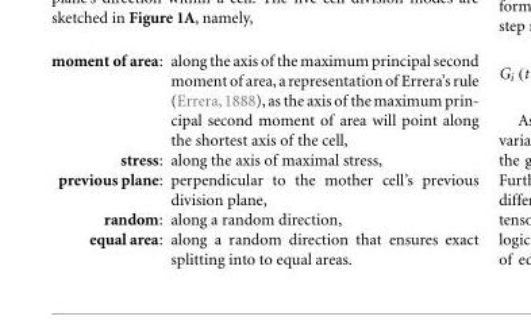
<table><tbody><tr><td>moment of area:</td><td>along the axis of the maximum principal second momentof area,arepresentationof Errera’srule (Errera,1888),as the axis of the maximum prin- cipal second moment of area will point along the shortest axis of the cell,</td></tr><tr><td>stress:</td><td>along the axis of maximal stress,</td></tr><tr><td>previous plane:</td><td>perpendicular to the mother cell’s previous division plane,</td></tr><tr><td>random:</td><td>along a random direction,</td></tr><tr><td>equal area:</td><td>along a random direction that ensures exact splitting into to equal areas.</td></tr></tbody></table>